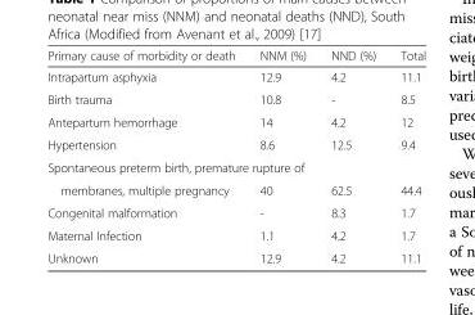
<table><thead><tr><td>Primary cause of morbidity or death</td><td>NNM (%)</td><td>NND (%)</td><td>Total</td></tr></thead><tbody><tr><td>Intrapartum asphyxia</td><td>12.9</td><td>4.2</td><td>11.1</td></tr><tr><td>Birth trauma</td><td>10.8</td><td>-</td><td>8.5</td></tr><tr><td>Antepartum hemorrhage</td><td>14</td><td>4.2</td><td>12</td></tr><tr><td>Hypertension</td><td>8.6</td><td>12.5</td><td>9.4</td></tr><tr><td colspan="4">Spontaneous preterm birth, premature rupture of</td></tr><tr><td>membranes, multiple pregnancy</td><td>40</td><td>62.5</td><td>44.4</td></tr><tr><td>Congenital malformation</td><td>-</td><td>8.3</td><td>1.7</td></tr><tr><td>Maternal Infection</td><td>1.1</td><td>4.2</td><td>1.7</td></tr><tr><td>Unknown</td><td>12.9</td><td>4.2</td><td>11.1</td></tr></tbody></table>